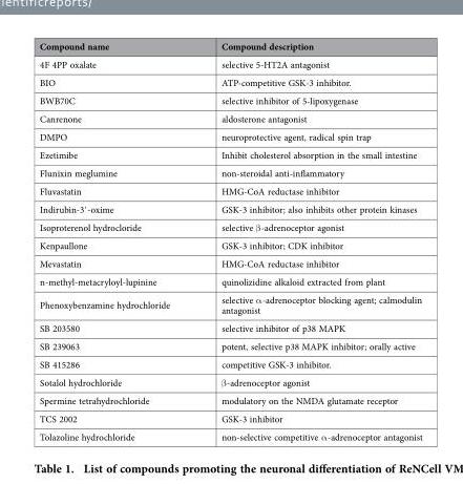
<table><thead><tr><td>Compound name</td><td>Compound description</td></tr></thead><tbody><tr><td>4F 4PP oxalate</td><td>selective 5-HT2A antagonist</td></tr><tr><td>BIO</td><td>ATP-competitive GSK-3 inhibitor.</td></tr><tr><td>BWB70C</td><td>selective inhibitor of 5-lipoxygenase</td></tr><tr><td>Canrenone</td><td>aldosterone antagonist</td></tr><tr><td>DMPO</td><td>neuroprotective agent, radical spin trap</td></tr><tr><td>Ezetimibe</td><td>Inhibit cholesterol absorption in the small intestine</td></tr><tr><td>Flunixin meglumine</td><td>non-steroidal anti-inflammatory</td></tr><tr><td>Fluvastatin</td><td>HMG-CoA reductase inhibitor</td></tr><tr><td>Indirubin-3′ -oxime</td><td>GSK-3 inhibitor; also inhibits other protein kinases</td></tr><tr><td>Isoproterenol hydrocloride</td><td>selective β -adrenoceptor agonist</td></tr><tr><td>Kenpaullone</td><td>GSK-3 inhibitor; CDK inhibitor</td></tr><tr><td>Mevastatin</td><td>HMG-CoA reductase inhibitor</td></tr><tr><td>n-methyl-metacryloyl-lupinine</td><td>quinolizidine alkaloid extracted from plant</td></tr><tr><td>Phenoxybenzamine hydrochloride</td><td>selective α -adrenoceptor blocking agent; calmodulin antagonist</td></tr><tr><td>SB 203580</td><td>selective inhibitor of p38 MAPK</td></tr><tr><td>SB 239063</td><td>potent, selective p38 MAPK inhibitor; orally active</td></tr><tr><td>SB 415286</td><td>competitive GSK-3 inhibitor.</td></tr><tr><td>Sotalol hydrochloride</td><td>β -adrenoceptor agonist</td></tr><tr><td>Spermine tetrahydrochloride</td><td>modulatory on the NMDA glutamate receptor</td></tr><tr><td>TCS 2002</td><td>GSK-3 inhibitor</td></tr><tr><td>Tolazoline hydrochloride</td><td>non-selective competitive α -adrenoceptor antagonist</td></tr></tbody></table>